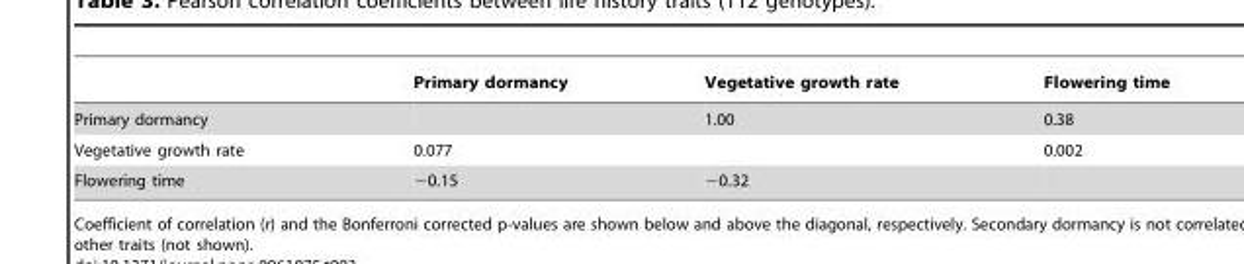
<table><thead><tr><td></td><td>Primary dormancy</td><td>Vegetative growth rate</td><td>Flowering time</td></tr></thead><tbody><tr><td>Primary dormancy</td><td></td><td>1.00</td><td>0.38</td></tr><tr><td>Vegetative growth rate</td><td>0.077</td><td></td><td>0.002</td></tr><tr><td>Flowering time</td><td>−0.15</td><td>−0.32</td><td></td></tr></tbody></table>